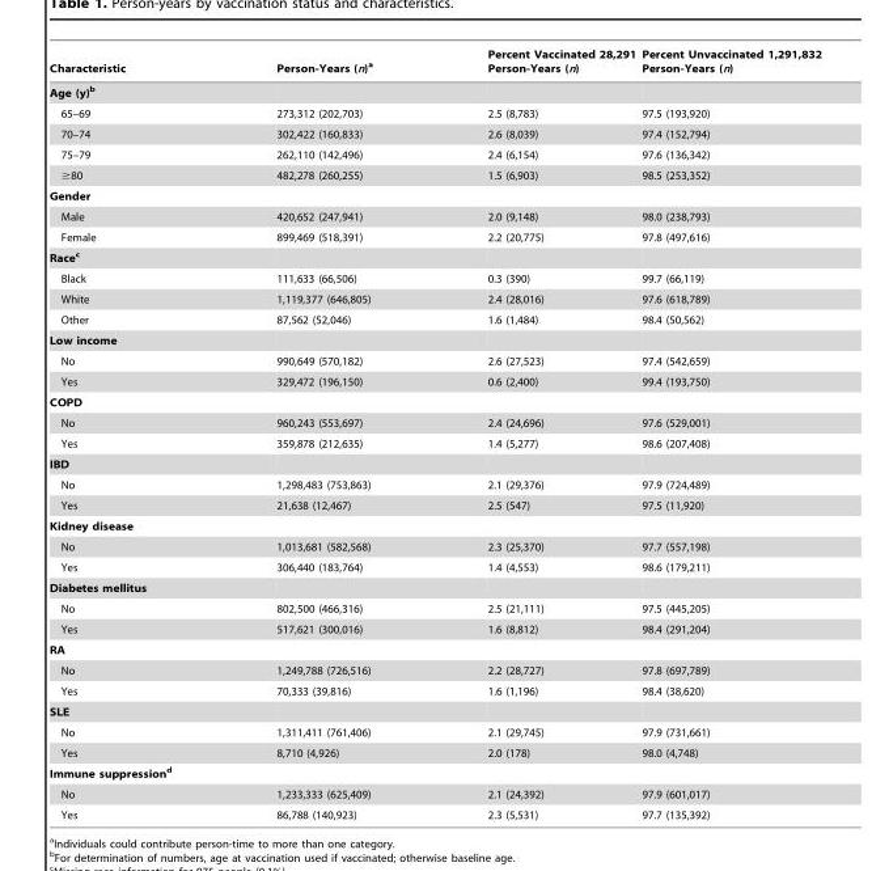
<table><thead><tr><td>Characteristic</td><td>Person-Years (n)<sup>a</sup></td><td>Percent Vaccinated 28,291 Person-Years (n)</td><td>Percent Unvaccinated 1,291,832 Person-Years (n)</td></tr></thead><tbody><tr><td colspan="4">Age (y)b</td></tr><tr><td>65–69</td><td>273,312 (202,703)</td><td>2.5 (8,783)</td><td>97.5 (193,920)</td></tr><tr><td>70–74</td><td>302,422 (160,833)</td><td>2.6 (8,039)</td><td>97.4 (152,794)</td></tr><tr><td>75–79</td><td>262,110 (142,496)</td><td>2.4 (6,154)</td><td>97.6 (136,342)</td></tr><tr><td>≥80</td><td>482,278 (260,255)</td><td>1.5 (6,903)</td><td>98.5 (253,352)</td></tr><tr><td colspan="4">Gender</td></tr><tr><td>Male</td><td>420,652 (247,941)</td><td>2.0 (9,148)</td><td>98.0 (238,793)</td></tr><tr><td>Female</td><td>899,469 (518,391)</td><td>2.2 (20,775)</td><td>97.8 (497,616)</td></tr><tr><td colspan="4">Racec</td></tr><tr><td>Black</td><td>111,633 (66,506)</td><td>0.3 (390)</td><td>99.7 (66,119)</td></tr><tr><td>White</td><td>1,119,377 (646,805)</td><td>2.4 (28,016)</td><td>97.6 (618,789)</td></tr><tr><td>Other</td><td>87,562 (52,046)</td><td>1.6 (1,484)</td><td>98.4 (50,562)</td></tr><tr><td colspan="4">Low income</td></tr><tr><td>No</td><td>990,649 (570,182)</td><td>2.6 (27,523)</td><td>97.4 (542,659)</td></tr><tr><td>Yes</td><td>329,472 (196,150)</td><td>0.6 (2,400)</td><td>99.4 (193,750)</td></tr><tr><td colspan="4">COPD</td></tr><tr><td>No</td><td>960,243 (553,697)</td><td>2.4 (24,696)</td><td>97.6 (529,001)</td></tr><tr><td>Yes</td><td>359,878 (212,635)</td><td>1.4 (5,277)</td><td>98.6 (207,408)</td></tr><tr><td colspan="4">IBD</td></tr><tr><td>No</td><td>1,298,483 (753,863)</td><td>2.1 (29,376)</td><td>97.9 (724,489)</td></tr><tr><td>Yes</td><td>21,638 (12,467)</td><td>2.5 (547)</td><td>97.5 (11,920)</td></tr><tr><td colspan="4">Kidney disease</td></tr><tr><td>No</td><td>1,013,681 (582,568)</td><td>2.3 (25,370)</td><td>97.7 (557,198)</td></tr><tr><td>Yes</td><td>306,440 (183,764)</td><td>1.4 (4,553)</td><td>98.6 (179,211)</td></tr><tr><td colspan="4">Diabetes mellitus</td></tr><tr><td>No</td><td>802,500 (466,316)</td><td>2.5 (21,111)</td><td>97.5 (445,205)</td></tr><tr><td>Yes</td><td>517,621 (300,016)</td><td>1.6 (8,812)</td><td>98.4 (291,204)</td></tr><tr><td colspan="4">RA</td></tr><tr><td>No</td><td>1,249,788 (726,516)</td><td>2.2 (28,727)</td><td>97.8 (697,789)</td></tr><tr><td>Yes</td><td>70,333 (39,816)</td><td>1.6 (1,196)</td><td>98.4 (38,620)</td></tr><tr><td colspan="4">SLE</td></tr><tr><td>No</td><td>1,311,411 (761,406)</td><td>2.1 (29,745)</td><td>97.9 (731,661)</td></tr><tr><td>Yes</td><td>8,710 (4,926)</td><td>2.0 (178)</td><td>98.0 (4,748)</td></tr><tr><td colspan="4">Immune suppressiond</td></tr><tr><td>No</td><td>1,233,333 (625,409)</td><td>2.1 (24,392)</td><td>97.9 (601,017)</td></tr><tr><td>Yes</td><td>86,788 (140,923)</td><td>2.3 (5,531)</td><td>97.7 (135,392)</td></tr></tbody></table>